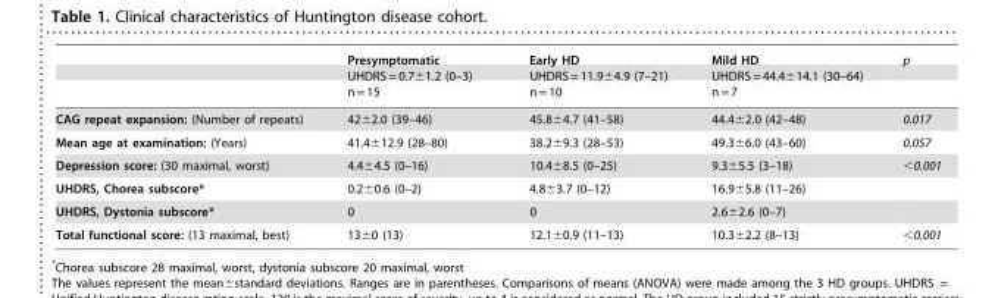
<table><thead><tr><td rowspan="3"></td><td rowspan="3">Presymptomatic UHDRS = 0.7±1.2 (0–3) n = 15</td><td rowspan="3">Early HD UHDRS = 11.9±4.9 (7–21) n = 10</td><td rowspan="3">Mild HD UHDRS = 44.4±14.1 (30–64) n = 7</td><td rowspan="3">p</td></tr><tr></tr><tr></tr></thead><tbody><tr><td>CAG repeat expansion: (Number of repeats)</td><td>42±2.0 (39–46)</td><td>45.8±4.7 (41–58)</td><td>44.4±2.0 (42–48)</td><td>0.017</td></tr><tr><td>Mean age at examination: (Years)</td><td>41.4±12.9 (28–80)</td><td>38.2±9.3 (28–53)</td><td>49.3±6.0 (43–60)</td><td>0.057</td></tr><tr><td>Depression score: (30 maximal, worst)</td><td>4.4±4.5 (0–16)</td><td>10.4±8.5 (0–25)</td><td>9.3±5.5 (3–18)</td><td>&lt;0.001</td></tr><tr><td>UHDRS, Chorea subscore*</td><td>0.2±0.6 (0–2)</td><td>4.8±3.7 (0–12)</td><td>16.9±5.8 (11–26)</td><td></td></tr><tr><td>UHDRS, Dystonia subscore*</td><td>0</td><td>0</td><td>2.6±2.6 (0–7)</td><td></td></tr><tr><td>Total functional score: (13 maximal, best)</td><td>13±0 (13)</td><td>12.1±0.9 (11–13)</td><td>10.3±2.2 (8–13)</td><td>&lt;0.001</td></tr></tbody></table>